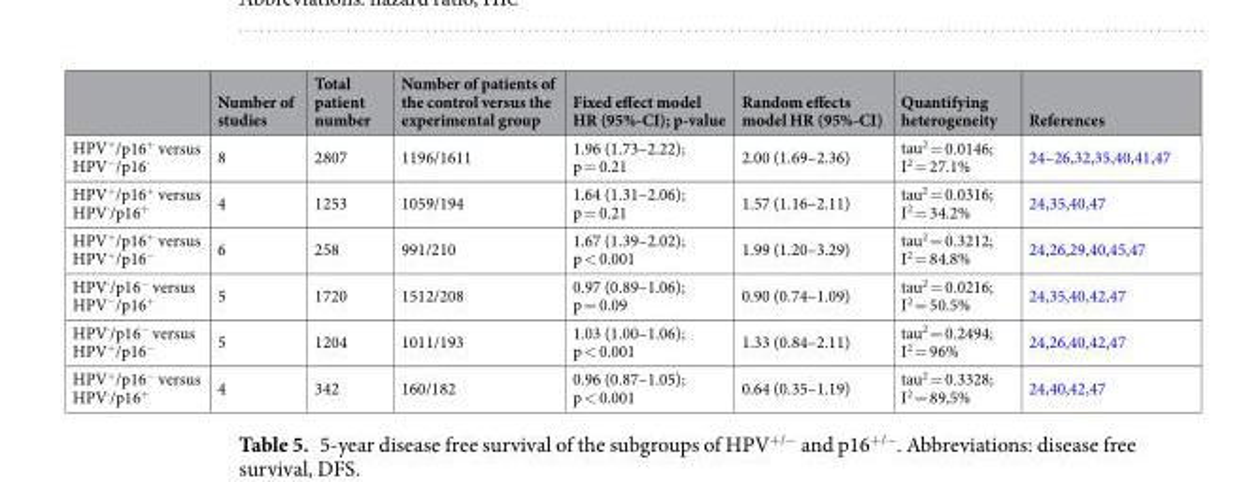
<table><thead><tr><td></td><td>Number of studies</td><td>Total patient number</td><td>Number of patients of the control versus the experimental group</td><td>Fixed effect model HR (95%-CI); p-value</td><td>Random effects model HR (95%-CI)</td><td>Quantifying heterogeneity</td><td>References</td></tr></thead><tbody><tr><td>HPV<sup>+</sup>/p16<sup>+</sup> versus HPV<sup>−</sup>/p16<sup>-</sup></td><td>8</td><td>2807</td><td>1196/1611</td><td>1.96 (1.73–2.22); p = 0.21</td><td>2.00 (1.69–2.36)</td><td>tau<sup>2</sup> = 0.0146; I<sup>2</sup> = 27.1%</td><td>24–26,32,35,40,41,47</td></tr><tr><td>HPV<sup>+</sup>/p16<sup>+</sup> versus HPV<sup>-</sup>/p16<sup>+</sup></td><td>4</td><td>1253</td><td>1059/194</td><td>1.64 (1.31–2.06); p = 0.21</td><td>1.57 (1.16–2.11)</td><td>tau<sup>2</sup> = 0.0316; I<sup>2</sup> = 34.2%</td><td>24,35,40,47</td></tr><tr><td>HPV<sup>+</sup>/p16<sup>+</sup> versus HPV<sup>+</sup>/p16<sup>−</sup></td><td>6</td><td>258</td><td>991/210</td><td>1.67 (1.39–2.02); p &lt; 0.001</td><td>1.99 (1.20–3.29)</td><td>tau<sup>2</sup> = 0.3212; I<sup>2</sup> = 84.8%</td><td>24,26,29,40,45,47</td></tr><tr><td>HPV<sup>-</sup>/p16<sup>−</sup> versus HPV<sup>−</sup>/p16<sup>+</sup></td><td>5</td><td>1720</td><td>1512/208</td><td>0.97 (0.89–1.06); p = 0.09</td><td>0.90 (0.74–1.09)</td><td>tau<sup>2</sup> = 0.0216; I<sup>2</sup> = 50.5%</td><td>24,35,40,42,47</td></tr><tr><td>HPV<sup>-</sup>/p16<sup>−</sup> versus HPV<sup>+</sup>/p16<sup>−</sup></td><td>5</td><td>1204</td><td>1011/193</td><td>1.03 (1.00–1.06); p &lt; 0.001</td><td>1.33 (0.84–2.11)</td><td>tau<sup>2</sup> = 0.2494; I<sup>2</sup> = 96%</td><td>24,26,40,42,47</td></tr><tr><td>HPV<sup>+</sup>/p16<sup>−</sup> versus HPV<sup>-</sup>/p16<sup>+</sup></td><td>4</td><td>342</td><td>160/182</td><td>0.96 (0.87–1.05); p &lt; 0.001</td><td>0.64 (0.35–1.19)</td><td>tau<sup>2</sup> = 0.3328; I<sup>2</sup> = 89,5%</td><td>24,40,42,47</td></tr></tbody></table>